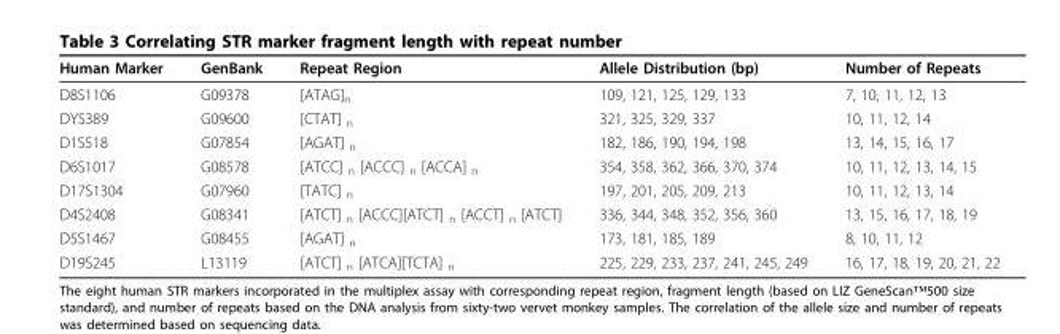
<table><thead><tr><td>Human Marker</td><td>GenBank</td><td>Repeat Region</td><td>Allele Distribution (bp)</td><td>Number of Repeats</td></tr></thead><tbody><tr><td>D8S1106</td><td>G09378</td><td>[ATAG]<sub>n</sub></td><td>109, 121, 125, 129, 133</td><td>7, 10, 11, 12, 13</td></tr><tr><td>DYS389</td><td>G09600</td><td>[CTAT] <sub>n</sub></td><td>321, 325, 329, 337</td><td>10, 11, 12, 14</td></tr><tr><td>D1S518</td><td>G07854</td><td>[AGAT] <sub>n</sub></td><td>182, 186, 190, 194, 198</td><td>13, 14, 15, 16, 17</td></tr><tr><td>D6S1017</td><td>G08578</td><td>[ATCC] <sub>n</sub> [ACCC] <sub>n</sub> [ACCA] <sub>n</sub></td><td>354, 358, 362, 366, 370, 374</td><td>10, 11, 12, 13, 14, 15</td></tr><tr><td>D17S1304</td><td>G07960</td><td>[TATC] <sub>n</sub></td><td>197, 201, 205, 209, 213</td><td>10, 11, 12, 13, 14</td></tr><tr><td>D4S2408</td><td>G08341</td><td>[ATCT] <sub>n</sub> [ACCC][ATCT] <sub>n</sub> [ACCT] <sub>n</sub> [ATCT]</td><td>336, 344, 348, 352, 356, 360</td><td>13, 15, 16, 17, 18, 19</td></tr><tr><td>D5S1467</td><td>G08455</td><td>[AGAT] <sub>n</sub></td><td>173, 181, 185, 189</td><td>8, 10, 11, 12</td></tr><tr><td>D19S245</td><td>L13119</td><td>[ATCT] <sub>n</sub> [ATCA][TCTA] <sub>n</sub></td><td>225, 229, 233, 237, 241, 245, 249</td><td>16, 17, 18, 19, 20, 21, 22</td></tr></tbody></table>